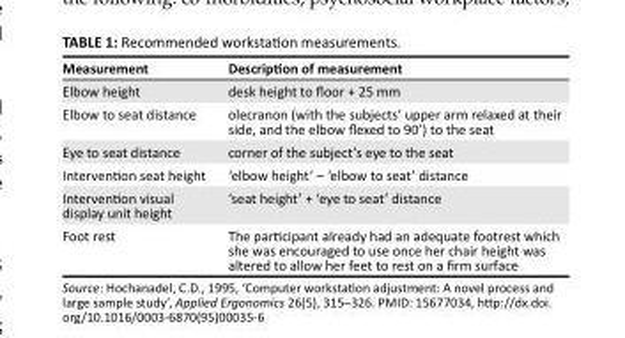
<table><thead><tr><td>Measurement</td><td>Description of measurement</td></tr></thead><tbody><tr><td>Elbow height</td><td>desk height to floor + 25 mm</td></tr><tr><td>Elbow to seat distance</td><td>olecranon (with the subjects’ upper arm relaxed at their side, and the elbow flexed to 90’) to the seat</td></tr><tr><td>Eye to seat distance</td><td>corner of the subject’s eye to the seat</td></tr><tr><td>Intervention seat height</td><td>‘elbow height’ – ‘elbow to seat’ distance</td></tr><tr><td>Intervention visual display unit height</td><td>‘seat height’ + ‘eye to seat’ distance</td></tr><tr><td>Foot rest</td><td>The participant already had an adequate footrest which she was encouraged to use once her chair height was altered to allow her feet to rest on a firm surface</td></tr></tbody></table>